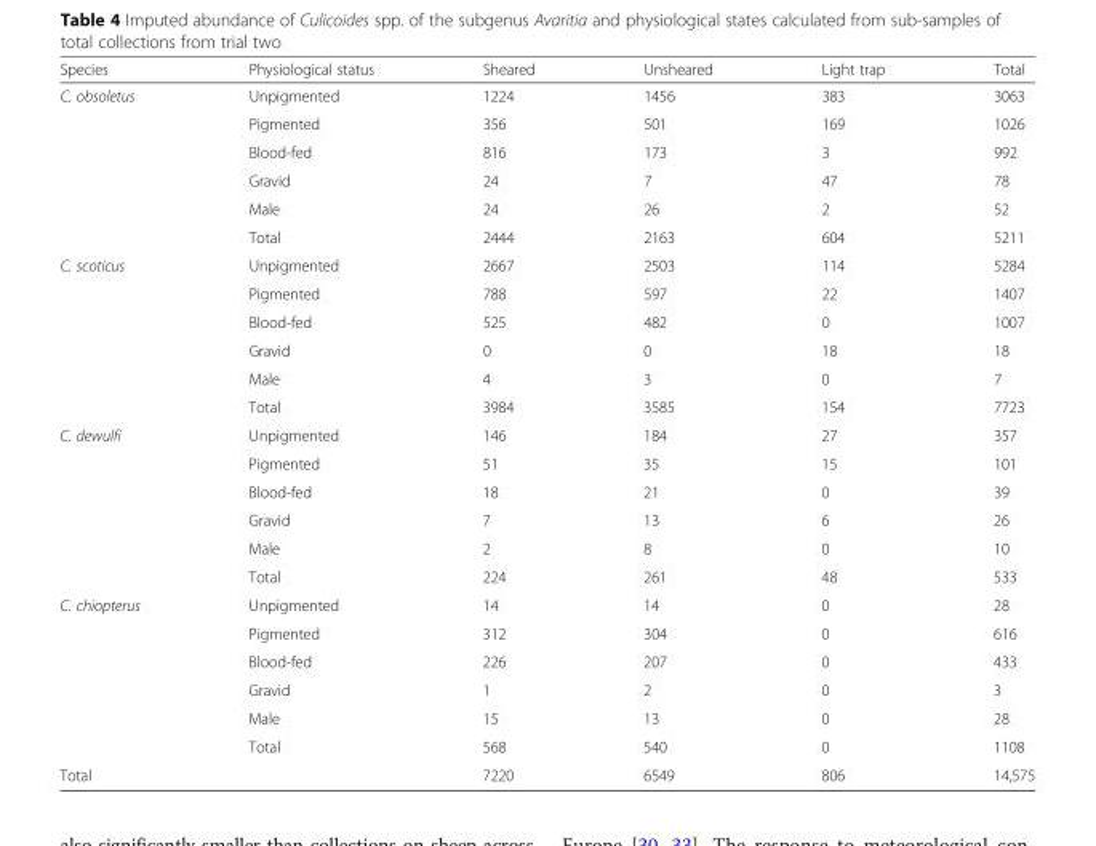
<table><thead><tr><td>Species</td><td>Physiological status</td><td>Sheared</td><td>Unsheared</td><td>Light trap</td><td>Total</td></tr></thead><tbody><tr><td rowspan="6">C. obsoletus</td><td>Unpigmented</td><td>1224</td><td>1456</td><td>383</td><td>3063</td></tr><tr><td>Pigmented</td><td>356</td><td>501</td><td>169</td><td>1026</td></tr><tr><td>Blood-fed</td><td>816</td><td>173</td><td>3</td><td>992</td></tr><tr><td>Gravid</td><td>24</td><td>7</td><td>47</td><td>78</td></tr><tr><td>Male</td><td>24</td><td>26</td><td>2</td><td>52</td></tr><tr><td>Total</td><td>2444</td><td>2163</td><td>604</td><td>5211</td></tr><tr><td rowspan="6">C. scoticus</td><td>Unpigmented</td><td>2667</td><td>2503</td><td>114</td><td>5284</td></tr><tr><td>Pigmented</td><td>788</td><td>597</td><td>22</td><td>1407</td></tr><tr><td>Blood-fed</td><td>525</td><td>482</td><td>0</td><td>1007</td></tr><tr><td>Gravid</td><td>0</td><td>0</td><td>18</td><td>18</td></tr><tr><td>Male</td><td>4</td><td>3</td><td>0</td><td>7</td></tr><tr><td>Total</td><td>3984</td><td>3585</td><td>154</td><td>7723</td></tr><tr><td rowspan="6">C. dewulfi</td><td>Unpigmented</td><td>146</td><td>184</td><td>27</td><td>357</td></tr><tr><td>Pigmented</td><td>51</td><td>35</td><td>15</td><td>101</td></tr><tr><td>Blood-fed</td><td>18</td><td>21</td><td>0</td><td>39</td></tr><tr><td>Gravid</td><td>7</td><td>13</td><td>6</td><td>26</td></tr><tr><td>Male</td><td>2</td><td>8</td><td>0</td><td>10</td></tr><tr><td>Total</td><td>224</td><td>261</td><td>48</td><td>533</td></tr><tr><td rowspan="6">C. chiopterus</td><td>Unpigmented</td><td>14</td><td>14</td><td>0</td><td>28</td></tr><tr><td>Pigmented</td><td>312</td><td>304</td><td>0</td><td>616</td></tr><tr><td>Blood-fed</td><td>226</td><td>207</td><td>0</td><td>433</td></tr><tr><td>Gravid</td><td>1</td><td>2</td><td>0</td><td>3</td></tr><tr><td>Male</td><td>15</td><td>13</td><td>0</td><td>28</td></tr><tr><td>Total</td><td>568</td><td>540</td><td>0</td><td>1108</td></tr><tr><td colspan="2">Total</td><td>7220</td><td>6549</td><td>806</td><td>14,575</td></tr></tbody></table>